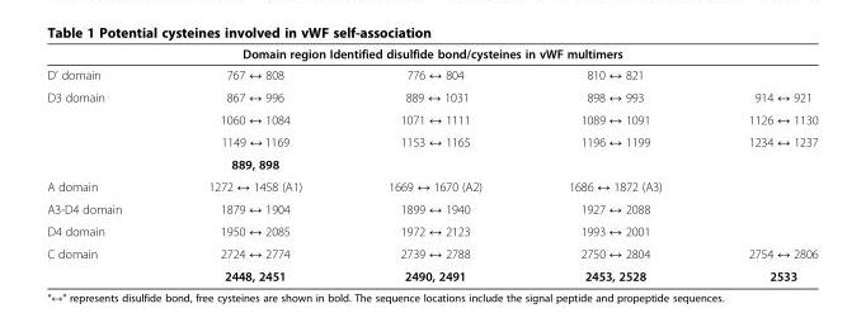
<table><thead><tr><td colspan="5">Domain region Identified disulfide bond/cysteines in vWF multimers</td></tr><tr><td>D’ domain</td><td>767 ↔ 808</td><td>776 ↔ 804</td><td>810 ↔ 821</td><td></td></tr></thead><tbody><tr><td rowspan="4">D3 domain</td><td>867 ↔ 996</td><td>889 ↔ 1031</td><td>898 ↔ 993</td><td>914 ↔ 921</td></tr><tr><td>1060 ↔ 1084</td><td>1071 ↔ 1111</td><td>1089 ↔ 1091</td><td>1126 ↔ 1130</td></tr><tr><td>1149 ↔ 1169</td><td>1153 ↔ 1165</td><td>1196 ↔ 1199</td><td>1234 ↔ 1237</td></tr><tr><td>889, 898</td><td></td><td></td><td></td></tr><tr><td>A domain</td><td>1272 ↔ 1458 (A1)</td><td>1669 ↔ 1670 (A2)</td><td>1686 ↔ 1872 (A3)</td><td></td></tr><tr><td>A3-D4 domain</td><td>1879 ↔ 1904</td><td>1899 ↔ 1940</td><td>1927 ↔ 2088</td><td></td></tr><tr><td>D4 domain</td><td>1950 ↔ 2085</td><td>1972 ↔ 2123</td><td>1993 ↔ 2001</td><td></td></tr><tr><td rowspan="2">C domain</td><td>2724 ↔ 2774</td><td>2739 ↔ 2788</td><td>2750 ↔ 2804</td><td>2754 ↔ 2806</td></tr><tr><td>2448, 2451</td><td>2490, 2491</td><td>2453, 2528</td><td>2533</td></tr></tbody></table>